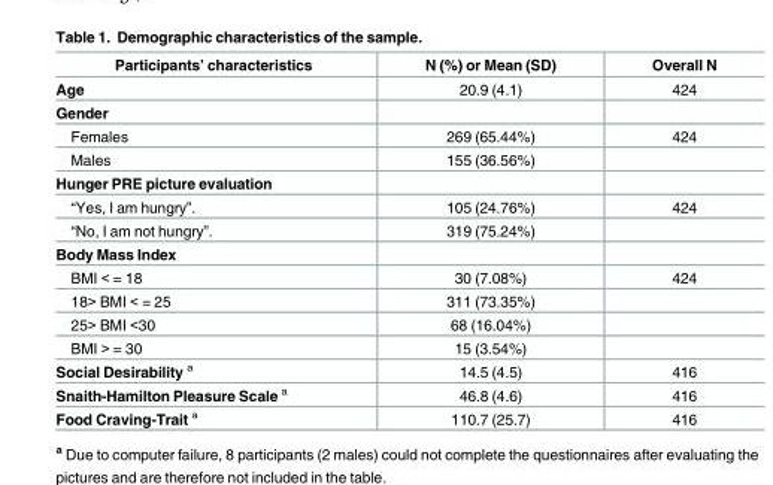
<table><thead><tr><td>Participants’ characteristics</td><td>N (%) or Mean (SD)</td><td>Overall N</td></tr></thead><tbody><tr><td>Age</td><td>20.9 (4.1)</td><td>424</td></tr><tr><td colspan="3">Gender</td></tr><tr><td>Females</td><td>269 (65.44%)</td><td>424</td></tr><tr><td>Males</td><td>155 (36.56%)</td><td></td></tr><tr><td colspan="3">Hunger PRE picture evaluation</td></tr><tr><td>“Yes, I am hungry”.</td><td>105 (24.76%)</td><td>424</td></tr><tr><td>“No, I am not hungry”.</td><td>319 (75.24%)</td><td></td></tr><tr><td colspan="3">Body Mass Index</td></tr><tr><td>BMI &lt; = 18</td><td>30 (7.08%)</td><td>424</td></tr><tr><td>18&gt; BMI &lt; = 25</td><td>311 (73.35%)</td><td></td></tr><tr><td>25&gt; BMI &lt;30</td><td>68 (16.04%)</td><td></td></tr><tr><td>BMI &gt; = 30</td><td>15 (3.54%)</td><td></td></tr><tr><td>Social Desirability <sup>a</sup></td><td>14.5 (4.5)</td><td>416</td></tr><tr><td>Snaith-Hamilton Pleasure Scale <sup>a</sup></td><td>46.8 (4.6)</td><td>416</td></tr><tr><td>Food Craving-Trait <sup>a</sup></td><td>110.7 (25.7)</td><td>416</td></tr></tbody></table>